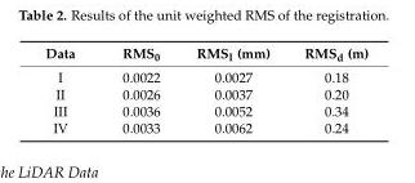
<table><thead><tr><td>Data</td><td>RMS<sub>0</sub></td><td>RMS<sub>I</sub> (mm)</td><td>RMS<sub>d</sub> (m)</td></tr></thead><tbody><tr><td>I</td><td>0.0022</td><td>0.0027</td><td>0.18</td></tr><tr><td>II</td><td>0.0026</td><td>0.0037</td><td>0.20</td></tr><tr><td>III</td><td>0.0036</td><td>0.0052</td><td>0.34</td></tr><tr><td>IV</td><td>0.0033</td><td>0.0062</td><td>0.24</td></tr></tbody></table>